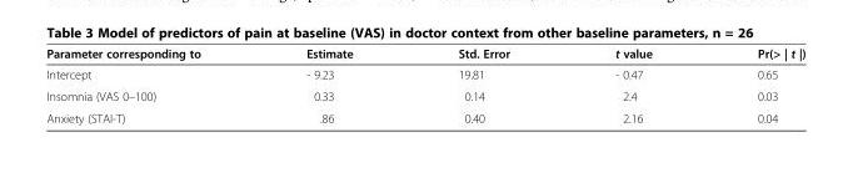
<table><thead><tr><td>Parameter corresponding to</td><td>Estimate</td><td>Std. Error</td><td>t value</td><td>Pr(&gt; | t |)</td></tr></thead><tbody><tr><td>Intercept</td><td>- 9.23</td><td>19.81</td><td>- 0.47</td><td>0.65</td></tr><tr><td>Insomnia (VAS 0–100)</td><td>0.33</td><td>0.14</td><td>2.4</td><td>0.03</td></tr><tr><td>Anxiety (STAI-T)</td><td>.86</td><td>0.40</td><td>2.16</td><td>0.04</td></tr></tbody></table>